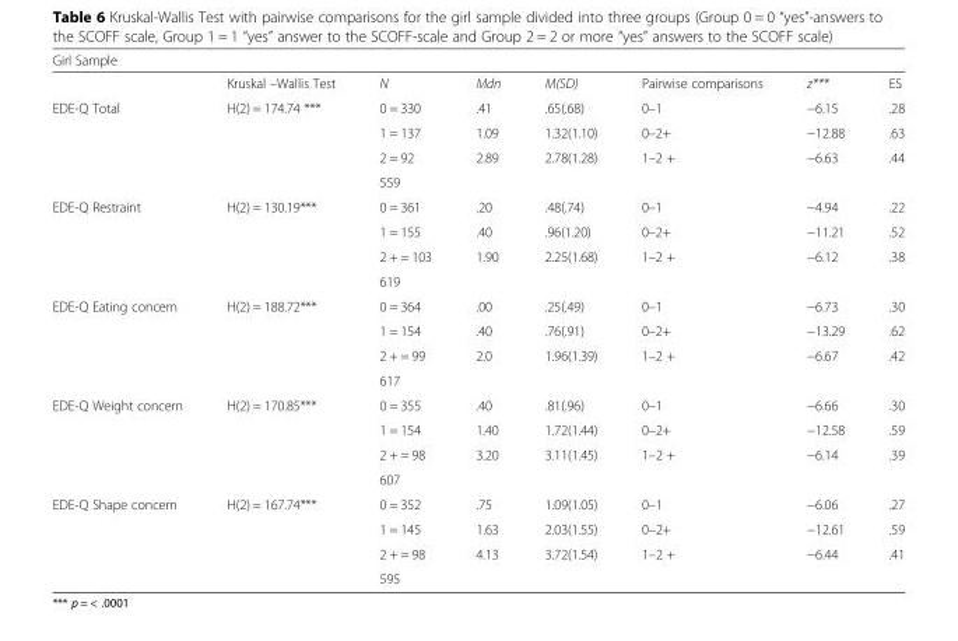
<table><thead><tr><td colspan="8">Girl Sample</td></tr><tr><td></td><td>Kruskal –Wallis Test</td><td>N</td><td>Mdn</td><td>M(SD)</td><td>Pairwise comparisons</td><td>z***</td><td>ES</td></tr></thead><tbody><tr><td rowspan="4">EDE-Q Total</td><td rowspan="4">H(2) = 174.74 ***</td><td>0 = 330</td><td>.41</td><td>.65(.68)</td><td>0–1</td><td>−6.15</td><td>.28</td></tr><tr><td>1 = 137</td><td>1.09</td><td>1.32(1.10)</td><td>0–2+</td><td>−12.88</td><td>.63</td></tr><tr><td>2 = 92</td><td>2.89</td><td>2.78(1.28)</td><td>1–2 +</td><td>−6.63</td><td>.44</td></tr><tr><td>559</td><td></td><td></td><td></td><td></td><td></td></tr><tr><td rowspan="4">EDE-Q Restraint</td><td rowspan="4">H(2) = 130.19***</td><td>0 = 361</td><td>.20</td><td>.48(.74)</td><td>0–1</td><td>−4.94</td><td>.22</td></tr><tr><td>1 = 155</td><td>.40</td><td>.96(1.20)</td><td>0–2+</td><td>−11.21</td><td>.52</td></tr><tr><td>2 + = 103</td><td>1.90</td><td>2.25(1.68)</td><td>1–2 +</td><td>−6.12</td><td>.38</td></tr><tr><td>619</td><td></td><td></td><td></td><td></td><td></td></tr><tr><td rowspan="4">EDE-Q Eating concern</td><td rowspan="4">H(2) = 188.72***</td><td>0 = 364</td><td>.00</td><td>.25(.49)</td><td>0–1</td><td>−6.73</td><td>.30</td></tr><tr><td>1 = 154</td><td>.40</td><td>.76(.91)</td><td>0–2+</td><td>−13.29</td><td>.62</td></tr><tr><td>2 + = 99</td><td>2.0</td><td>1.96(1.39)</td><td>1–2 +</td><td>−6.67</td><td>.42</td></tr><tr><td>617</td><td></td><td></td><td></td><td></td><td></td></tr><tr><td rowspan="4">EDE-Q Weight concern</td><td rowspan="4">H(2) = 170.85***</td><td>0 = 355</td><td>.40</td><td>.81(.96)</td><td>0–1</td><td>−6.66</td><td>.30</td></tr><tr><td>1 = 154</td><td>1.40</td><td>1.72(1.44)</td><td>0–2+</td><td>−12.58</td><td>.59</td></tr><tr><td>2 + = 98</td><td>3.20</td><td>3.11(1.45)</td><td>1–2 +</td><td>−6.14</td><td>.39</td></tr><tr><td>607</td><td></td><td></td><td></td><td></td><td></td></tr><tr><td rowspan="4">EDE-Q Shape concern</td><td rowspan="4">H(2) = 167.74***</td><td>0 = 352</td><td>.75</td><td>1.09(1.05)</td><td>0–1</td><td>−6.06</td><td>.27</td></tr><tr><td>1 = 145</td><td>1.63</td><td>2.03(1.55)</td><td>0–2+</td><td>−12.61</td><td>.59</td></tr><tr><td>2 + = 98</td><td>4.13</td><td>3.72(1.54)</td><td>1–2 +</td><td>−6.44</td><td>.41</td></tr><tr><td>595</td><td></td><td></td><td></td><td></td><td></td></tr></tbody></table>